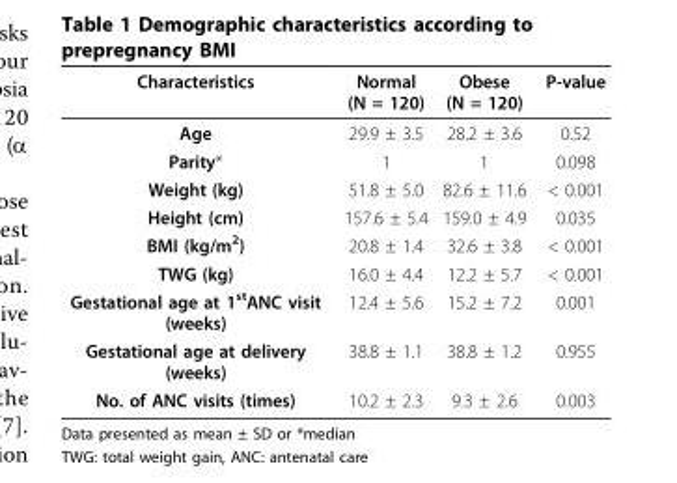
<table><thead><tr><td>Characteristics</td><td>Normal (N = 120)</td><td>Obese (N = 120)</td><td>P-value</td></tr></thead><tbody><tr><td>Age</td><td>29.9 ± 3.5</td><td>28.2 ± 3.6</td><td>0.52</td></tr><tr><td>Parity*</td><td>1</td><td>1</td><td>0.098</td></tr><tr><td>Weight (kg)</td><td>51.8 ± 5.0</td><td>82.6 ± 11.6</td><td>&lt; 0.001</td></tr><tr><td>Height (cm)</td><td>157.6 ± 5.4</td><td>159.0 ± 4.9</td><td>0.035</td></tr><tr><td>BMI (kg/m<sup>2</sup>)</td><td>20.8 ± 1.4</td><td>32.6 ± 3.8</td><td>&lt; 0.001</td></tr><tr><td>TWG (kg)</td><td>16.0 ± 4.4</td><td>12.2 ± 5.7</td><td>&lt; 0.001</td></tr><tr><td>Gestational age at 1<sup>st</sup>ANC visit (weeks)</td><td>12.4 ± 5.6</td><td>15.2 ± 7.2</td><td>0.001</td></tr><tr><td>Gestational age at delivery (weeks)</td><td>38.8 ± 1.1</td><td>38.8 ± 1.2</td><td>0.955</td></tr><tr><td>No. of ANC visits (times)</td><td>10.2 ± 2.3</td><td>9.3 ± 2.6</td><td>0.003</td></tr></tbody></table>